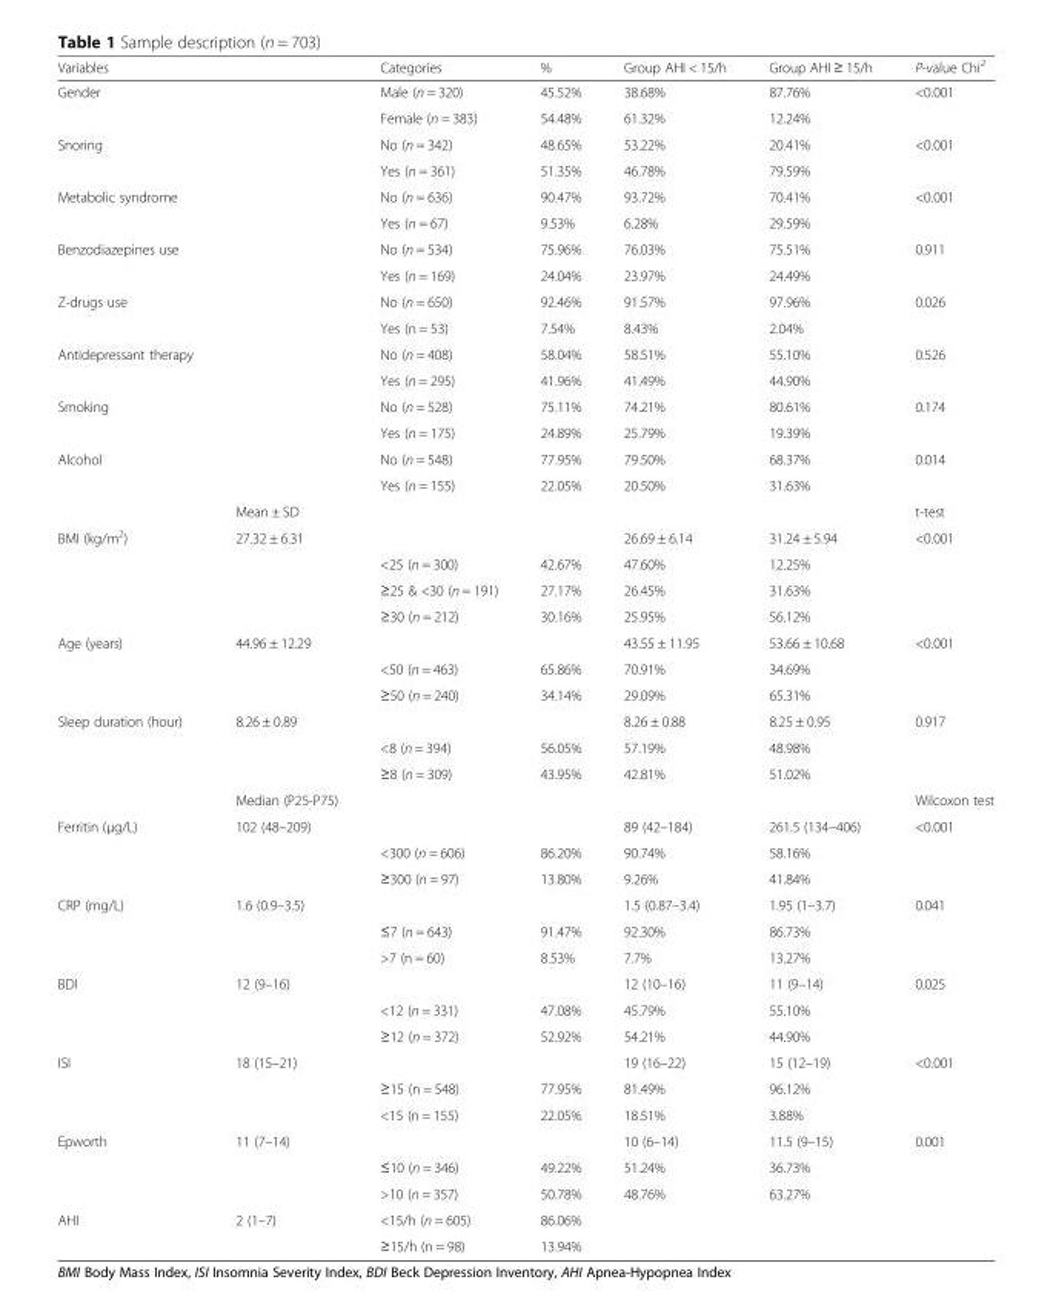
<table><thead><tr><td>Variables</td><td></td><td>Categories</td><td>%</td><td>Group AHI &lt; 15/h</td><td>Group AHI ≥ 15/h</td><td>P-value Chi<sup>2</sup></td></tr></thead><tbody><tr><td rowspan="2">Gender</td><td rowspan="2"></td><td>Male (n = 320)</td><td>45.52%</td><td>38.68%</td><td>87.76%</td><td rowspan="2">&lt;0.001</td></tr><tr><td>Female (n = 383)</td><td>54.48%</td><td>61.32%</td><td>12.24%</td></tr><tr><td rowspan="2">Snoring</td><td rowspan="2"></td><td>No (n = 342)</td><td>48.65%</td><td>53.22%</td><td>20.41%</td><td rowspan="2">&lt;0.001</td></tr><tr><td>Yes (n = 361)</td><td>51.35%</td><td>46.78%</td><td>79.59%</td></tr><tr><td rowspan="2">Metabolic syndrome</td><td rowspan="2"></td><td>No (n = 636)</td><td>90.47%</td><td>93.72%</td><td>70.41%</td><td rowspan="2">&lt;0.001</td></tr><tr><td>Yes (n = 67)</td><td>9.53%</td><td>6.28%</td><td>29.59%</td></tr><tr><td rowspan="2">Benzodiazepines use</td><td rowspan="2"></td><td>No (n = 534)</td><td>75.96%</td><td>76.03%</td><td>75.51%</td><td rowspan="2">0.911</td></tr><tr><td>Yes (n = 169)</td><td>24.04%</td><td>23.97%</td><td>24.49%</td></tr><tr><td rowspan="2">Z-drugs use</td><td rowspan="2"></td><td>No (n = 650)</td><td>92.46%</td><td>91.57%</td><td>97.96%</td><td rowspan="2">0.026</td></tr><tr><td>Yes (n = 53)</td><td>7.54%</td><td>8.43%</td><td>2.04%</td></tr><tr><td rowspan="2">Antidepressant therapy</td><td rowspan="2"></td><td>No (n = 408)</td><td>58.04%</td><td>58.51%</td><td>55.10%</td><td rowspan="2">0.526</td></tr><tr><td>Yes (n = 295)</td><td>41.96%</td><td>41.49%</td><td>44.90%</td></tr><tr><td rowspan="2">Smoking</td><td rowspan="2"></td><td>No (n = 528)</td><td>75.11%</td><td>74.21%</td><td>80.61%</td><td rowspan="2">0.174</td></tr><tr><td>Yes (n = 175)</td><td>24.89%</td><td>25.79%</td><td>19.39%</td></tr><tr><td rowspan="3">Alcohol</td><td rowspan="2"></td><td>No (n = 548)</td><td>77.95%</td><td>79.50%</td><td>68.37%</td><td rowspan="2">0.014</td></tr><tr><td>Yes (n = 155)</td><td>22.05%</td><td>20.50%</td><td>31.63%</td></tr><tr><td>Mean ± SD</td><td></td><td></td><td></td><td></td><td>t-test</td></tr><tr><td rowspan="4">BMI (kg/m<sup>2</sup>)</td><td rowspan="4">27.32 ± 6.31</td><td></td><td></td><td>26.69 ± 6.14</td><td>31.24 ± 5.94</td><td rowspan="4">&lt;0.001</td></tr><tr><td>&lt;25 (n = 300)</td><td>42.67%</td><td>47.60%</td><td>12.25%</td></tr><tr><td>≥25 &amp; &lt;30 (n = 191)</td><td>27.17%</td><td>26.45%</td><td>31.63%</td></tr><tr><td>≥30 (n = 212)</td><td>30.16%</td><td>25.95%</td><td>56.12%</td></tr><tr><td rowspan="3">Age (years)</td><td rowspan="3">44.96 ± 12.29</td><td></td><td></td><td>43.55 ± 11.95</td><td>53.66 ± 10.68</td><td rowspan="3">&lt;0.001</td></tr><tr><td>&lt;50 (n = 463)</td><td>65.86%</td><td>70.91%</td><td>34.69%</td></tr><tr><td>≥50 (n = 240)</td><td>34.14%</td><td>29.09%</td><td>65.31%</td></tr><tr><td rowspan="4">Sleep duration (hour)</td><td rowspan="3">8.26 ± 0.89</td><td></td><td></td><td>8.26 ± 0.88</td><td>8.25 ± 0.95</td><td rowspan="3">0.917</td></tr><tr><td>&lt;8 (n = 394)</td><td>56.05%</td><td>57.19%</td><td>48.98%</td></tr><tr><td>≥8 (n = 309)</td><td>43.95%</td><td>42.81%</td><td>51.02%</td></tr><tr><td>Median (P25-P75)</td><td></td><td></td><td></td><td></td><td>Wilcoxon test</td></tr><tr><td rowspan="3">Ferritin (μg/L)</td><td rowspan="3">102 (48–209)</td><td></td><td></td><td>89 (42–184)</td><td>261.5 (134–406)</td><td rowspan="3">&lt;0.001</td></tr><tr><td>&lt;300 (n = 606)</td><td>86.20%</td><td>90.74%</td><td>58.16%</td></tr><tr><td>≥300 (n = 97)</td><td>13.80%</td><td>9.26%</td><td>41.84%</td></tr><tr><td rowspan="3">CRP (mg/L)</td><td rowspan="3">1.6 (0.9–3.5)</td><td></td><td></td><td>1.5 (0.87–3.4)</td><td>1.95 (1–3.7)</td><td rowspan="3">0.041</td></tr><tr><td>≤7 (n = 643)</td><td>91.47%</td><td>92.30%</td><td>86.73%</td></tr><tr><td>&gt;7 (n = 60)</td><td>8.53%</td><td>7.7%</td><td>13.27%</td></tr><tr><td rowspan="3">BDI</td><td rowspan="3">12 (9–16)</td><td></td><td></td><td>12 (10–16)</td><td>11 (9–14)</td><td rowspan="3">0.025</td></tr><tr><td>&lt;12 (n = 331)</td><td>47.08%</td><td>45.79%</td><td>55.10%</td></tr><tr><td>≥12 (n = 372)</td><td>52.92%</td><td>54.21%</td><td>44.90%</td></tr><tr><td rowspan="3">ISI</td><td rowspan="3">18 (15–21)</td><td></td><td></td><td>19 (16–22)</td><td>15 (12–19)</td><td rowspan="3">&lt;0.001</td></tr><tr><td>≥15 (n = 548)</td><td>77.95%</td><td>81.49%</td><td>96.12%</td></tr><tr><td>&lt;15 (n = 155)</td><td>22.05%</td><td>18.51%</td><td>3.88%</td></tr><tr><td rowspan="3">Epworth</td><td rowspan="3">11 (7–14)</td><td></td><td></td><td>10 (6–14)</td><td>11.5 (9–15)</td><td rowspan="3">0.001</td></tr><tr><td>≤10 (n = 346)</td><td>49.22%</td><td>51.24%</td><td>36.73%</td></tr><tr><td>&gt;10 (n = 357)</td><td>50.78%</td><td>48.76%</td><td>63.27%</td></tr><tr><td rowspan="2">AHI</td><td rowspan="2">2 (1–7)</td><td>&lt;15/h (n = 605)</td><td>86.06%</td><td rowspan="2"></td><td rowspan="2"></td><td rowspan="2"></td></tr><tr><td>≥15/h (n = 98)</td><td>13.94%</td></tr></tbody></table>